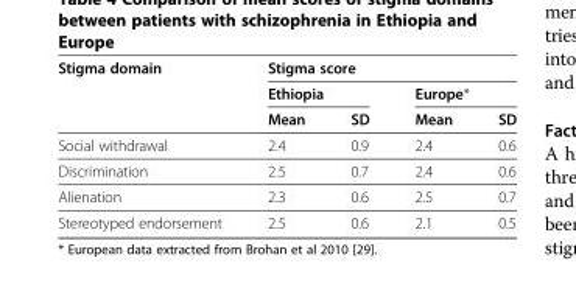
<table><thead><tr><td rowspan="3">Stigma domain</td><td colspan="4">Stigma score</td></tr><tr><td colspan="2">Ethiopia</td><td colspan="2">Europe*</td></tr><tr><td>Mean</td><td>SD</td><td>Mean</td><td>SD</td></tr></thead><tbody><tr><td>Social withdrawal</td><td>2.4</td><td>0.9</td><td>2.4</td><td>0.6</td></tr><tr><td>Discrimination</td><td>2.5</td><td>0.7</td><td>2.4</td><td>0.6</td></tr><tr><td>Alienation</td><td>2.3</td><td>0.6</td><td>2.5</td><td>0.7</td></tr><tr><td>Stereotyped endorsement</td><td>2.5</td><td>0.6</td><td>2.1</td><td>0.5</td></tr></tbody></table>